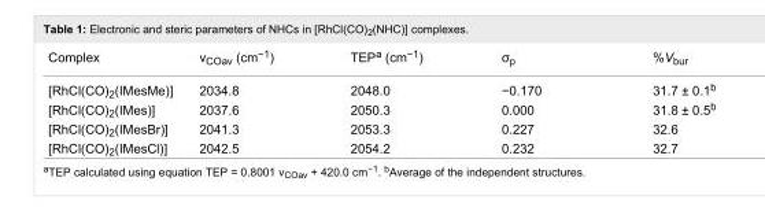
<table><tbody><tr><td>Complex</td><td>ν<sub>COav</sub> (cm<sup>−1</sup>)</td><td>TEP<sup>a</sup> (cm<sup>−1</sup>)</td><td>σ<sub>p</sub></td><td>%V<sub>bur</sub></td></tr><tr><td>[RhCl(CO)<sub>2</sub>(IMesMe)]</td><td>2034.8</td><td>2048.0</td><td>−0.170</td><td>31.7 ± 0.1<sup>b</sup></td></tr><tr><td>[RhCl(CO)<sub>2</sub>(IMes)]</td><td>2037.6</td><td>2050.3</td><td>0.000</td><td>31.8 ± 0.5<sup>b</sup></td></tr><tr><td>[RhCl(CO)<sub>2</sub>(IMesBr)]</td><td>2041.3</td><td>2053.3</td><td>0.227</td><td>32.6</td></tr><tr><td>[RhCl(CO)<sub>2</sub>(IMesCl)]</td><td>2042.5</td><td>2054.2</td><td>0.232</td><td>32.7</td></tr></tbody></table>